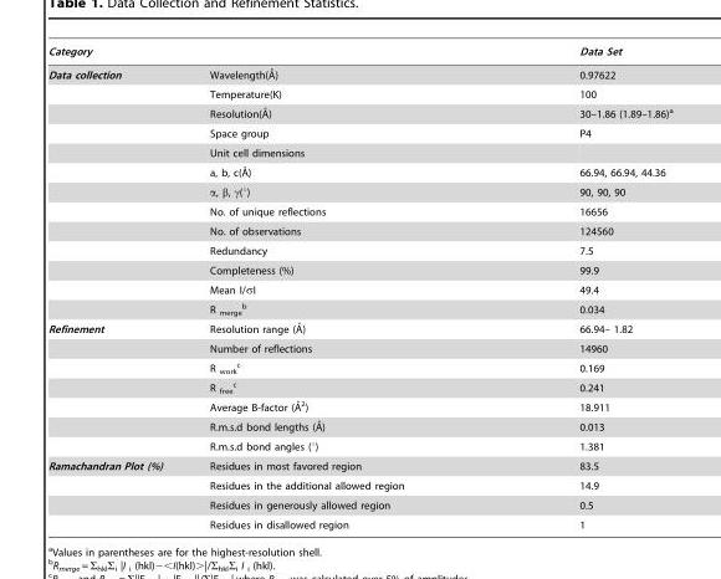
<table><thead><tr><td>Category</td><td></td><td>Data Set</td></tr></thead><tbody><tr><td rowspan="13">Data collection</td><td>Wavelength(A˚)</td><td>0.97622</td></tr><tr><td>Temperature(K)</td><td>100</td></tr><tr><td>Resolution(A˚)</td><td>30–1.86 (1.89–1.86)<sup>a</sup></td></tr><tr><td>Space group</td><td>P4</td></tr><tr><td>Unit cell dimensions</td><td></td></tr><tr><td>a, b, c(A˚)</td><td>66.94, 66.94, 44.36</td></tr><tr><td>α, β, γ(°)</td><td>90, 90, 90</td></tr><tr><td>No. of unique reflections</td><td>16656</td></tr><tr><td>No. of observations</td><td>124560</td></tr><tr><td>Redundancy</td><td>7.5</td></tr><tr><td>Completeness (%)</td><td>99.9</td></tr><tr><td>Mean I/σI</td><td>49.4</td></tr><tr><td>R <sub>merge</sub> b</td><td>0.034</td></tr><tr><td rowspan="7">Refinement</td><td>Resolution range (A˚)</td><td>66.94– 1.82</td></tr><tr><td>Number of reflections</td><td>14960</td></tr><tr><td>R <sub>work</sub> c</td><td>0.169</td></tr><tr><td>R <sub>free</sub> c</td><td>0.241</td></tr><tr><td>Average B-factor (A˚ 2)</td><td>18.911</td></tr><tr><td>R.m.s.d bond lengths (A˚)</td><td>0.013</td></tr><tr><td>R.m.s.d bond angles (°)</td><td>1.381</td></tr><tr><td rowspan="4">Ramachandran Plot (%)</td><td>Residues in most favored region</td><td>83.5</td></tr><tr><td>Residues in the additional allowed region</td><td>14.9</td></tr><tr><td>Residues in generously allowed region</td><td>0.5</td></tr><tr><td>Residues in disallowed region</td><td>1</td></tr></tbody></table>